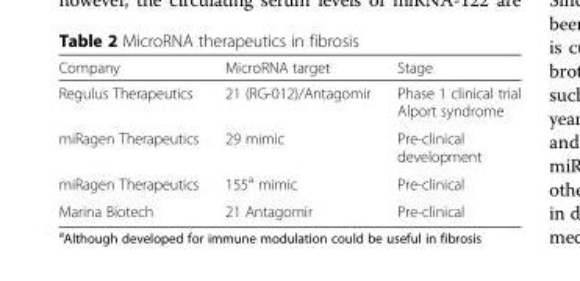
<table><thead><tr><td>Company</td><td>MicroRNA target</td><td>Stage</td></tr></thead><tbody><tr><td>Regulus Therapeutics</td><td>21 (RG-012)/Antagomir</td><td>Phase 1 clinical trial Alport syndrome</td></tr><tr><td>miRagen Therapeutics</td><td>29 mimic</td><td>Pre-clinical development</td></tr><tr><td>miRagen Therapeutics</td><td>155<sup>a</sup> mimic</td><td>Pre-clinical</td></tr><tr><td>Marina Biotech</td><td>21 Antagomir</td><td>Pre-clinical</td></tr></tbody></table>